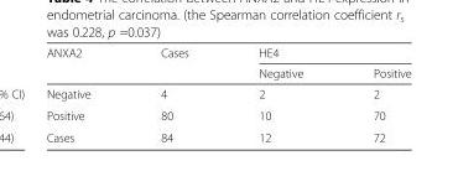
<table><thead><tr><td rowspan="2">ANXA2</td><td rowspan="2">Cases</td><td colspan="2">HE4</td></tr><tr><td>Negative</td><td>Positive</td></tr></thead><tbody><tr><td>Negative</td><td>4</td><td>2</td><td>2</td></tr><tr><td>Positive</td><td>80</td><td>10</td><td>70</td></tr><tr><td>Cases</td><td>84</td><td>12</td><td>72</td></tr></tbody></table>